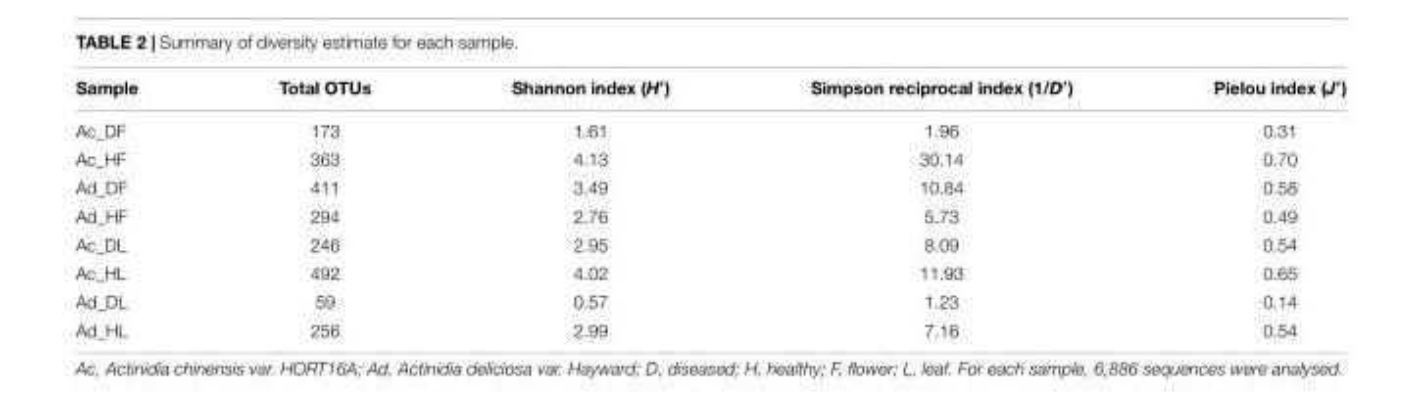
<table><thead><tr><td>Sample</td><td>Total OTUs</td><td>Shannon index (H′)</td><td>Simpson reciprocal index (1/D′)</td><td>Pielou index (J′)</td></tr></thead><tbody><tr><td>Ac_DF</td><td>173</td><td>1.61</td><td>1.96</td><td>0.31</td></tr><tr><td>Ac_HF</td><td>363</td><td>4.13</td><td>30.14</td><td>0.70</td></tr><tr><td>Ad_DF</td><td>411</td><td>3.49</td><td>10.84</td><td>0.58</td></tr><tr><td>Ad_HF</td><td>294</td><td>2.76</td><td>5.73</td><td>0.49</td></tr><tr><td>Ac_DL</td><td>246</td><td>2.95</td><td>8.09</td><td>0.54</td></tr><tr><td>Ac_HL</td><td>492</td><td>4.02</td><td>11.93</td><td>0.65</td></tr><tr><td>Ad_DL</td><td>59</td><td>0.57</td><td>1.23</td><td>0.14</td></tr><tr><td>Ad_HL</td><td>256</td><td>2.99</td><td>7.16</td><td>0.54</td></tr></tbody></table>